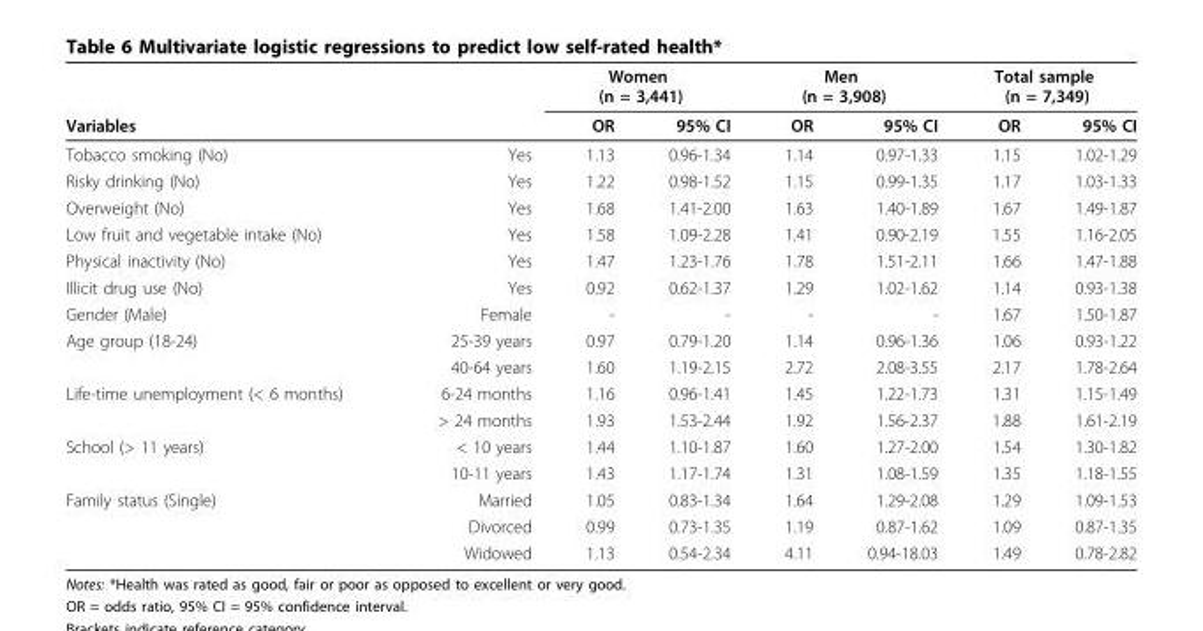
<table><thead><tr><td rowspan="2">Variables</td><td rowspan="2"></td><td colspan="2">Women (n = 3,441)</td><td colspan="2">Men (n = 3,908)</td><td colspan="2">Total sample (n = 7,349)</td></tr><tr><td>OR</td><td>95% CI</td><td>OR</td><td>95% CI</td><td>OR</td><td>95% CI</td></tr></thead><tbody><tr><td>Tobacco smoking (No)</td><td>Yes</td><td>1.13</td><td>0.96-1.34</td><td>1.14</td><td>0.97-1.33</td><td>1.15</td><td>1.02-1.29</td></tr><tr><td>Risky drinking (No)</td><td>Yes</td><td>1.22</td><td>0.98-1.52</td><td>1.15</td><td>0.99-1.35</td><td>1.17</td><td>1.03-1.33</td></tr><tr><td>Overweight (No)</td><td>Yes</td><td>1.68</td><td>1.41-2.00</td><td>1.63</td><td>1.40-1.89</td><td>1.67</td><td>1.49-1.87</td></tr><tr><td>Low fruit and vegetable intake (No)</td><td>Yes</td><td>1.58</td><td>1.09-2.28</td><td>1.41</td><td>0.90-2.19</td><td>1.55</td><td>1.16-2.05</td></tr><tr><td>Physical inactivity (No)</td><td>Yes</td><td>1.47</td><td>1.23-1.76</td><td>1.78</td><td>1.51-2.11</td><td>1.66</td><td>1.47-1.88</td></tr><tr><td>Illicit drug use (No)</td><td>Yes</td><td>0.92</td><td>0.62-1.37</td><td>1.29</td><td>1.02-1.62</td><td>1.14</td><td>0.93-1.38</td></tr><tr><td>Gender (Male)</td><td>Female</td><td>-</td><td>-</td><td>-</td><td>-</td><td>1.67</td><td>1.50-1.87</td></tr><tr><td rowspan="2">Age group (18-24)</td><td>25-39 years</td><td>0.97</td><td>0.79-1.20</td><td>1.14</td><td>0.96-1.36</td><td>1.06</td><td>0.93-1.22</td></tr><tr><td>40-64 years</td><td>1.60</td><td>1.19-2.15</td><td>2.72</td><td>2.08-3.55</td><td>2.17</td><td>1.78-2.64</td></tr><tr><td rowspan="2">Life-time unemployment (&lt; 6 months)</td><td>6-24 months</td><td>1.16</td><td>0.96-1.41</td><td>1.45</td><td>1.22-1.73</td><td>1.31</td><td>1.15-1.49</td></tr><tr><td>&gt; 24 months</td><td>1.93</td><td>1.53-2.44</td><td>1.92</td><td>1.56-2.37</td><td>1.88</td><td>1.61-2.19</td></tr><tr><td rowspan="2">School (&gt; 11 years)</td><td>&lt; 10 years</td><td>1.44</td><td>1.10-1.87</td><td>1.60</td><td>1.27-2.00</td><td>1.54</td><td>1.30-1.82</td></tr><tr><td>10-11 years</td><td>1.43</td><td>1.17-1.74</td><td>1.31</td><td>1.08-1.59</td><td>1.35</td><td>1.18-1.55</td></tr><tr><td rowspan="3">Family status (Single)</td><td>Married</td><td>1.05</td><td>0.83-1.34</td><td>1.64</td><td>1.29-2.08</td><td>1.29</td><td>1.09-1.53</td></tr><tr><td>Divorced</td><td>0.99</td><td>0.73-1.35</td><td>1.19</td><td>0.87-1.62</td><td>1.09</td><td>0.87-1.35</td></tr><tr><td>Widowed</td><td>1.13</td><td>0.54-2.34</td><td>4.11</td><td>0.94-18.03</td><td>1.49</td><td>0.78-2.82</td></tr></tbody></table>